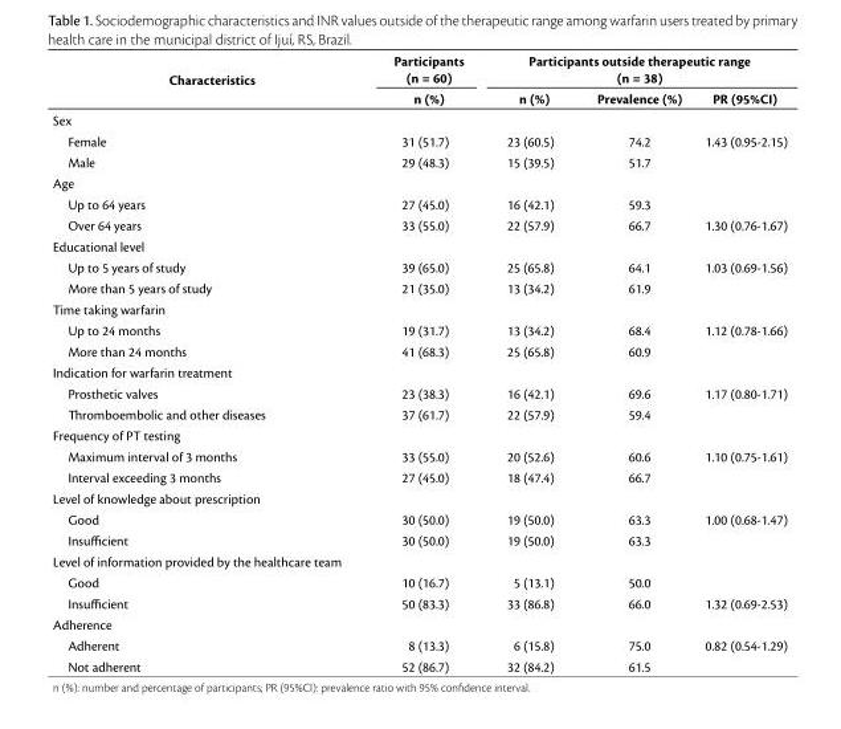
<table><thead><tr><td rowspan="2">Characteristics</td><td rowspan="2">Participants (n = 60) n (%)</td><td colspan="3">Participants outside therapeutic range (n = 38)</td></tr><tr><td>n (%)</td><td>Prevalence (%)</td><td>PR (95%CI)</td></tr></thead><tbody><tr><td colspan="5">Sex</td></tr><tr><td>Female</td><td>31 (51.7)</td><td>23 (60.5)</td><td>74.2</td><td>1.43 (0.95-2.15)</td></tr><tr><td>Male</td><td>29 (48.3)</td><td>15 (39.5)</td><td>51.7</td><td></td></tr><tr><td colspan="5">Age</td></tr><tr><td>Up to 64 years</td><td>27 (45.0)</td><td>16 (42.1)</td><td>59.3</td><td></td></tr><tr><td>Over 64 years</td><td>33 (55.0)</td><td>22 (57.9)</td><td>66.7</td><td>1.30 (0.76-1.67)</td></tr><tr><td colspan="5">Educational level</td></tr><tr><td>Up to 5 years of study</td><td>39 (65.0)</td><td>25 (65.8)</td><td>64.1</td><td>1.03 (0.69-1.56)</td></tr><tr><td>More than 5 years of study</td><td>21 (35.0)</td><td>13 (34.2)</td><td>61.9</td><td></td></tr><tr><td colspan="5">Time taking warfarin</td></tr><tr><td>Up to 24 months</td><td>19 (31.7)</td><td>13 (34.2)</td><td>68.4</td><td>1.12 (0.78-1.66)</td></tr><tr><td>More than 24 months</td><td>41 (68.3)</td><td>25 (65.8)</td><td>60.9</td><td></td></tr><tr><td colspan="5">Indication for warfarin treatment</td></tr><tr><td>Prosthetic valves</td><td>23 (38.3)</td><td>16 (42.1)</td><td>69.6</td><td>1.17 (0.80-1.71)</td></tr><tr><td>Thromboembolic and other diseases</td><td>37 (61.7)</td><td>22 (57.9)</td><td>59.4</td><td></td></tr><tr><td colspan="5">Frequency of PT testing</td></tr><tr><td>Maximum interval of 3 months</td><td>33 (55.0)</td><td>20 (52.6)</td><td>60.6</td><td>1.10 (0.75-1.61)</td></tr><tr><td>Interval exceeding 3 months</td><td>27 (45.0)</td><td>18 (47.4)</td><td>66.7</td><td></td></tr><tr><td colspan="5">Level of knowledge about prescription</td></tr><tr><td>Good</td><td>30 (50.0)</td><td>19 (50.0)</td><td>63.3</td><td>1.00 (0.68-1.47)</td></tr><tr><td>Insufficient</td><td>30 (50.0)</td><td>19 (50.0)</td><td>63.3</td><td></td></tr><tr><td colspan="5">Level of information provided by the healthcare team</td></tr><tr><td>Good</td><td>10 (16.7)</td><td>5 (13.1)</td><td>50.0</td><td></td></tr><tr><td>Insufficient</td><td>50 (83.3)</td><td>33 (86.8)</td><td>66.0</td><td>1.32 (0.69-2.53)</td></tr><tr><td colspan="5">Adherence</td></tr><tr><td>Adherent</td><td>8 (13.3)</td><td>6 (15.8)</td><td>75.0</td><td>0.82 (0.54-1.29)</td></tr><tr><td>Not adherent</td><td>52 (86.7)</td><td>32 (84.2)</td><td>61.5</td><td></td></tr></tbody></table>